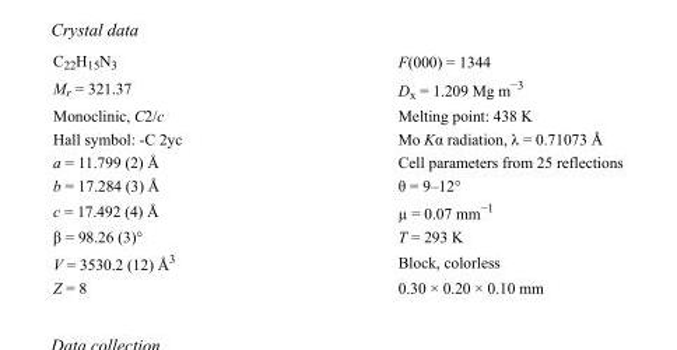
<table><tbody><tr><td>C<sub>22</sub>H<sub>15</sub>N<sub>3</sub></td><td>F(000) = 1344</td></tr><tr><td>M<sub>r</sub> = 321.37</td><td>D<sub>x</sub> = 1.209 Mg m<sup>−3</sup></td></tr><tr><td>Monoclinic, C2/c</td><td>Melting point: 438 K</td></tr><tr><td>Hall symbol: -C 2yc</td><td>Mo Kα radiation, λ = 0.71073 Å</td></tr><tr><td>a = 11.799 (2) Å</td><td>Cell parameters from 25 reflections</td></tr><tr><td>b = 17.284 (3) Å</td><td>θ = 9–12°</td></tr><tr><td>c = 17.492 (4) Å</td><td>µ = 0.07 mm<sup>−1</sup></td></tr><tr><td>β = 98.26 (3)°</td><td>T = 293 K</td></tr><tr><td>V = 3530.2 (12) Å<sup>3</sup></td><td>Block, colorless</td></tr><tr><td>Z = 8</td><td>0.30 × 0.20 × 0.10 mm</td></tr></tbody></table>